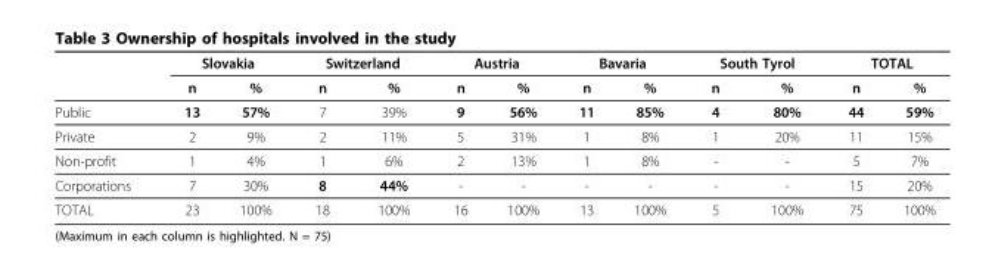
<table><thead><tr><td rowspan="2"></td><td colspan="2">Slovakia</td><td colspan="2">Switzerland</td><td colspan="2">Austria</td><td colspan="2">Bavaria</td><td colspan="2">South Tyrol</td><td colspan="2">TOTAL</td></tr><tr><td>n</td><td>%</td><td>n</td><td>%</td><td>n</td><td>%</td><td>n</td><td>%</td><td>n</td><td>%</td><td>n</td><td>%</td></tr></thead><tbody><tr><td>Public</td><td>13</td><td>57%</td><td>7</td><td>39%</td><td>9</td><td>56%</td><td>11</td><td>85%</td><td>4</td><td>80%</td><td>44</td><td>59%</td></tr><tr><td>Private</td><td>2</td><td>9%</td><td>2</td><td>11%</td><td>5</td><td>31%</td><td>1</td><td>8%</td><td>1</td><td>20%</td><td>11</td><td>15%</td></tr><tr><td>Non-profit</td><td>1</td><td>4%</td><td>1</td><td>6%</td><td>2</td><td>13%</td><td>1</td><td>8%</td><td>-</td><td>-</td><td>5</td><td>7%</td></tr><tr><td>Corporations</td><td>7</td><td>30%</td><td>8</td><td>44%</td><td>-</td><td>-</td><td>-</td><td>-</td><td>-</td><td>-</td><td>15</td><td>20%</td></tr><tr><td>TOTAL</td><td>23</td><td>100%</td><td>18</td><td>100%</td><td>16</td><td>100%</td><td>13</td><td>100%</td><td>5</td><td>100%</td><td>75</td><td>100%</td></tr></tbody></table>